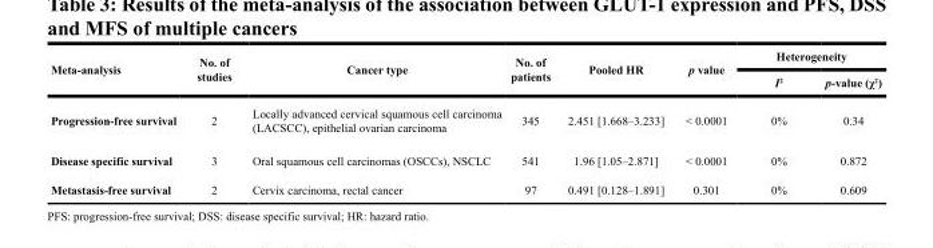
<table><thead><tr><td rowspan="2">Meta-analysis</td><td rowspan="2">No. of studies</td><td rowspan="2">Cancer type</td><td rowspan="2">No. of patients</td><td rowspan="2">Pooled HR</td><td rowspan="2">p value</td><td colspan="2">Heterogeneity</td></tr><tr><td>I<sup>2</sup></td><td>p-value (χ<sup>2</sup>)</td></tr></thead><tbody><tr><td>Progression-free survival</td><td>2</td><td>Locally advanced cervical squamous cell carcinoma (LACSCC), epithelial ovarian carcinoma</td><td>345</td><td>2.451 [1.668–3.233]</td><td>&lt; 0.0001</td><td>0%</td><td>0.34</td></tr><tr><td>Disease specific survival</td><td>3</td><td>Oral squamous cell carcinomas (OSCCs), NSCLC</td><td>541</td><td>1.96 [1.05–2.871]</td><td>&lt; 0.0001</td><td>0%</td><td>0.872</td></tr><tr><td>Metastasis-free survival</td><td>2</td><td>Cervix carcinoma, rectal cancer</td><td>97</td><td>0.491 [0.128–1.891]</td><td>0.301</td><td>0%</td><td>0.609</td></tr></tbody></table>